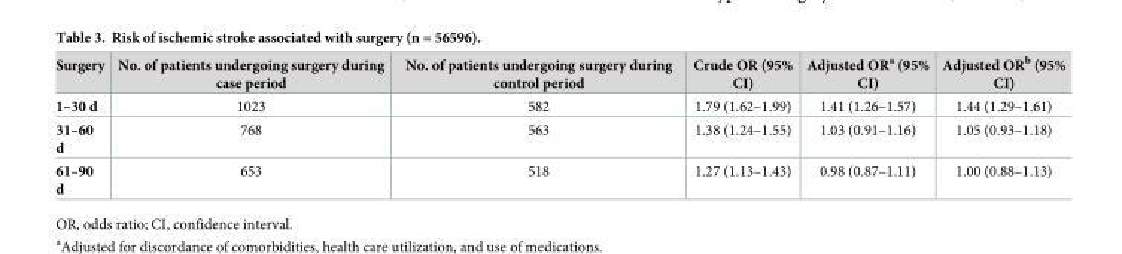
<table><thead><tr><td>Surgery</td><td>No. of patients undergoing surgery during case period</td><td>No. of patients undergoing surgery during control period</td><td>Crude OR (95% CI)</td><td>Adjusted OR<sup>a</sup> (95% CI)</td><td>Adjusted OR<sup>b</sup> (95% CI)</td></tr></thead><tbody><tr><td>1–30 d</td><td>1023</td><td>582</td><td>1.79 (1.62–1.99)</td><td>1.41 (1.26–1.57)</td><td>1.44 (1.29–1.61)</td></tr><tr><td>31–60 d</td><td>768</td><td>563</td><td>1.38 (1.24–1.55)</td><td>1.03 (0.91–1.16)</td><td>1.05 (0.93–1.18)</td></tr><tr><td>61–90 d</td><td>653</td><td>518</td><td>1.27 (1.13–1.43)</td><td>0.98 (0.87–1.11)</td><td>1.00 (0.88–1.13)</td></tr></tbody></table>